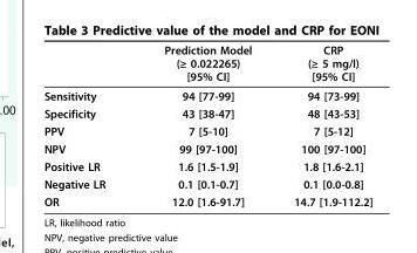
<table><thead><tr><td></td><td>Prediction Model (≥ 0.022265) [95% CI]</td><td>CRP (≥ 5 mg/l) [95% CI]</td></tr></thead><tbody><tr><td>Sensitivity</td><td>94 [77-99]</td><td>94 [73-99]</td></tr><tr><td>Specificity</td><td>43 [38-47]</td><td>48 [43-53]</td></tr><tr><td>PPV</td><td>7 [5-10]</td><td>7 [5-12]</td></tr><tr><td>NPV</td><td>99 [97-100]</td><td>100 [97-100]</td></tr><tr><td>Positive LR</td><td>1.6 [1.5-1.9]</td><td>1.8 [1.6-2.1]</td></tr><tr><td>Negative LR</td><td>0.1 [0.1-0.7]</td><td>0.1 [0.0-0.8]</td></tr><tr><td>OR</td><td>12.0 [1.6-91.7]</td><td>14.7 [1.9-112.2]</td></tr></tbody></table>